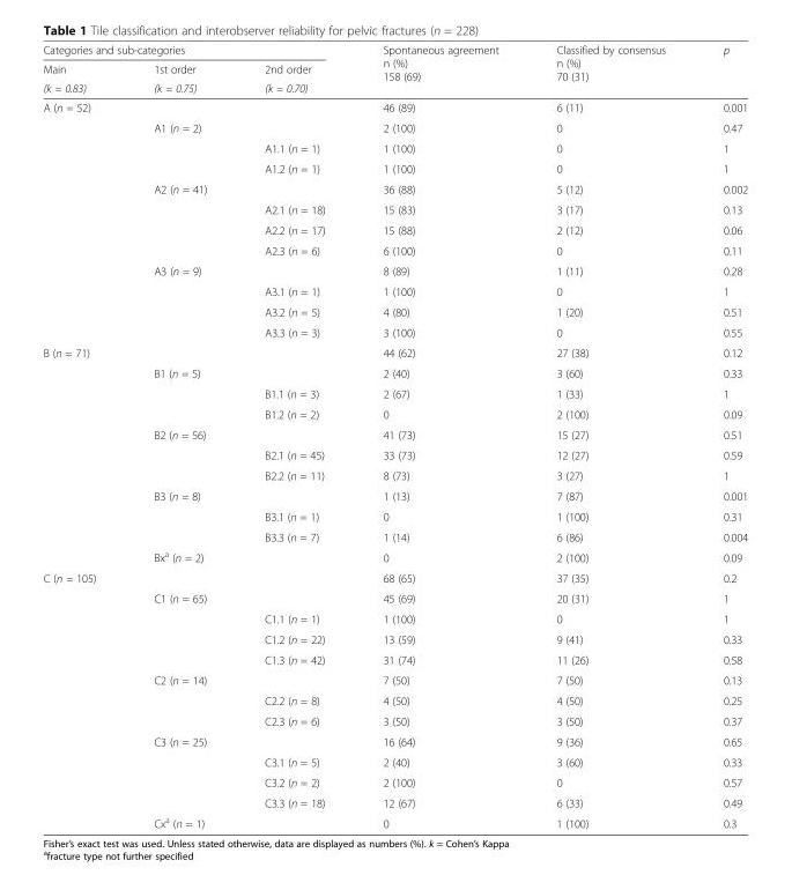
<table><thead><tr><td colspan="3">Categories and sub-categories</td><td rowspan="3">Spontaneous agreement n (%) 158 (69)</td><td rowspan="3">Classified by consensus n (%) 70 (31)</td><td rowspan="3">p</td></tr><tr><td rowspan="2">Main (k = 0.83)</td><td rowspan="2">1st order (k = 0.75)</td><td rowspan="2">2nd order (k = 0.70)</td></tr><tr></tr></thead><tbody><tr><td rowspan="12">A (n = 52)</td><td></td><td></td><td>46 (89)</td><td>6 (11)</td><td>0.001</td></tr><tr><td>A1 (n = 2)</td><td></td><td>2 (100)</td><td>0</td><td>0.47</td></tr><tr><td></td><td>A1.1 (n = 1)</td><td>1 (100)</td><td>0</td><td>1</td></tr><tr><td></td><td>A1.2 (n = 1)</td><td>1 (100)</td><td>0</td><td>1</td></tr><tr><td>A2 (n = 41)</td><td></td><td>36 (88)</td><td>5 (12)</td><td>0.002</td></tr><tr><td></td><td>A2.1 (n = 18)</td><td>15 (83)</td><td>3 (17)</td><td>0.13</td></tr><tr><td></td><td>A2.2 (n = 17)</td><td>15 (88)</td><td>2 (12)</td><td>0.06</td></tr><tr><td></td><td>A2.3 (n = 6)</td><td>6 (100)</td><td>0</td><td>0.11</td></tr><tr><td>A3 (n = 9)</td><td></td><td>8 (89)</td><td>1 (11)</td><td>0.28</td></tr><tr><td></td><td>A3.1 (n = 1)</td><td>1 (100)</td><td>0</td><td>1</td></tr><tr><td></td><td>A3.2 (n = 5)</td><td>4 (80)</td><td>1 (20)</td><td>0.51</td></tr><tr><td></td><td>A3.3 (n = 3)</td><td>3 (100)</td><td>0</td><td>0.55</td></tr><tr><td rowspan="11">B (n = 71)</td><td></td><td></td><td>44 (62)</td><td>27 (38)</td><td>0.12</td></tr><tr><td>B1 (n = 5)</td><td></td><td>2 (40)</td><td>3 (60)</td><td>0.33</td></tr><tr><td></td><td>B1.1 (n = 3)</td><td>2 (67)</td><td>1 (33)</td><td>1</td></tr><tr><td></td><td>B1.2 (n = 2)</td><td>0</td><td>2 (100)</td><td>0.09</td></tr><tr><td>B2 (n = 56)</td><td></td><td>41 (73)</td><td>15 (27)</td><td>0.51</td></tr><tr><td></td><td>B2.1 (n = 45)</td><td>33 (73)</td><td>12 (27)</td><td>0.59</td></tr><tr><td></td><td>B2.2 (n = 11)</td><td>8 (73)</td><td>3 (27)</td><td>1</td></tr><tr><td>B3 (n = 8)</td><td></td><td>1 (13)</td><td>7 (87)</td><td>0.001</td></tr><tr><td></td><td>B3.1 (n = 1)</td><td>0</td><td>1 (100)</td><td>0.31</td></tr><tr><td></td><td>B3.3 (n = 7)</td><td>1 (14)</td><td>6 (86)</td><td>0.004</td></tr><tr><td>Bx<sup>a</sup> (n = 2)</td><td></td><td>0</td><td>2 (100)</td><td>0.09</td></tr><tr><td rowspan="13">C (n = 105)</td><td></td><td></td><td>68 (65)</td><td>37 (35)</td><td>0.2</td></tr><tr><td>C1 (n = 65)</td><td></td><td>45 (69)</td><td>20 (31)</td><td>1</td></tr><tr><td></td><td>C1.1 (n = 1)</td><td>1 (100)</td><td>0</td><td>1</td></tr><tr><td></td><td>C1.2 (n = 22)</td><td>13 (59)</td><td>9 (41)</td><td>0.33</td></tr><tr><td></td><td>C1.3 (n = 42)</td><td>31 (74)</td><td>11 (26)</td><td>0.58</td></tr><tr><td>C2 (n = 14)</td><td></td><td>7 (50)</td><td>7 (50)</td><td>0.13</td></tr><tr><td></td><td>C2.2 (n = 8)</td><td>4 (50)</td><td>4 (50)</td><td>0.25</td></tr><tr><td></td><td>C2.3 (n = 6)</td><td>3 (50)</td><td>3 (50)</td><td>0.37</td></tr><tr><td>C3 (n = 25)</td><td></td><td>16 (64)</td><td>9 (36)</td><td>0.65</td></tr><tr><td></td><td>C3.1 (n = 5)</td><td>2 (40)</td><td>3 (60)</td><td>0.33</td></tr><tr><td></td><td>C3.2 (n = 2)</td><td>2 (100)</td><td>0</td><td>0.57</td></tr><tr><td></td><td>C3.3 (n = 18)</td><td>12 (67)</td><td>6 (33)</td><td>0.49</td></tr><tr><td>Cx<sup>a</sup> (n = 1)</td><td></td><td>0</td><td>1 (100)</td><td>0.3</td></tr></tbody></table>